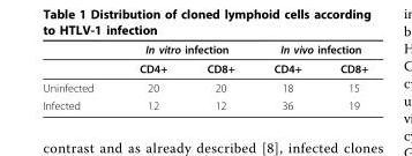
<table><thead><tr><td rowspan="2"></td><td colspan="2">In vitro infection</td><td colspan="2">In vivo infection</td></tr><tr><td>CD4+</td><td>CD8+</td><td>CD4+</td><td>CD8+</td></tr></thead><tbody><tr><td>Uninfected</td><td>20</td><td>20</td><td>18</td><td>15</td></tr><tr><td>Infected</td><td>12</td><td>12</td><td>36</td><td>19</td></tr></tbody></table>